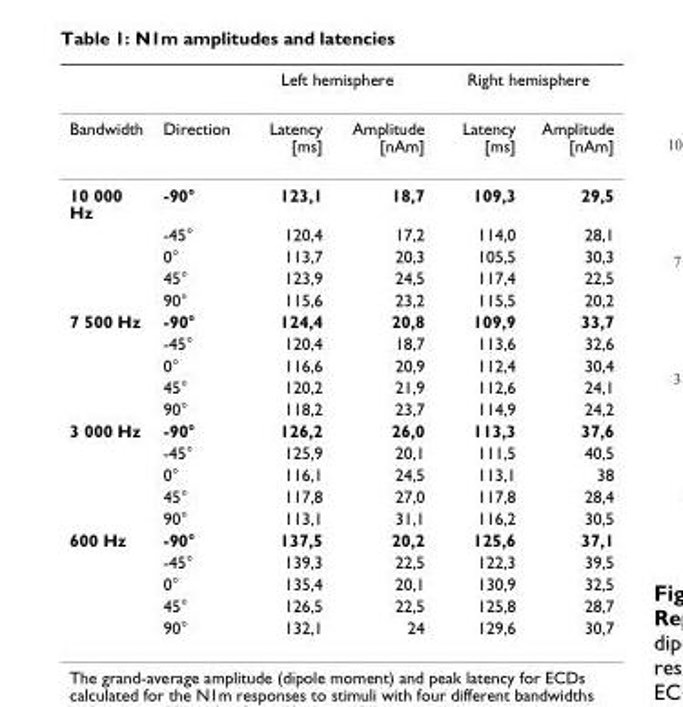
<table><thead><tr><td rowspan="2">Bandwidth</td><td rowspan="2">Direction</td><td colspan="2">Left hemisphere</td><td colspan="2">Right hemisphere</td></tr><tr><td>Latency [ms]</td><td>Amplitude [nAm]</td><td>Latency [ms]</td><td>Amplitude [nAm]</td></tr></thead><tbody><tr><td rowspan="5">10 000 Hz</td><td>-90°</td><td>123,1</td><td>18,7</td><td>109,3</td><td>29,5</td></tr><tr><td>-45°</td><td>120,4</td><td>17,2</td><td>114,0</td><td>28,1</td></tr><tr><td>0°</td><td>113,7</td><td>20,3</td><td>105,5</td><td>30,3</td></tr><tr><td>45°</td><td>123,9</td><td>24,5</td><td>117,4</td><td>22,5</td></tr><tr><td>90°</td><td>115,6</td><td>23,2</td><td>115,5</td><td>20,2</td></tr><tr><td rowspan="5">7 500 Hz</td><td>-90°</td><td>124,4</td><td>20,8</td><td>109,9</td><td>33,7</td></tr><tr><td>-45°</td><td>120,4</td><td>18,7</td><td>113,6</td><td>32,6</td></tr><tr><td>0°</td><td>116,6</td><td>20,9</td><td>112,4</td><td>30,4</td></tr><tr><td>45°</td><td>120,2</td><td>21,9</td><td>112,6</td><td>24,1</td></tr><tr><td>90°</td><td>118,2</td><td>23,7</td><td>114,9</td><td>24,2</td></tr><tr><td rowspan="5">3 000 Hz</td><td>-90°</td><td>126,2</td><td>26,0</td><td>113,3</td><td>37,6</td></tr><tr><td>-45°</td><td>125,9</td><td>20,1</td><td>111,5</td><td>40,5</td></tr><tr><td>0°</td><td>116,1</td><td>24,5</td><td>113,1</td><td>38</td></tr><tr><td>45°</td><td>117,8</td><td>27,0</td><td>117,8</td><td>28,4</td></tr><tr><td>90°</td><td>113,1</td><td>31,1</td><td>116,2</td><td>30,5</td></tr><tr><td rowspan="5">600 Hz</td><td>-90°</td><td>137,5</td><td>20,2</td><td>125,6</td><td>37,1</td></tr><tr><td>-45°</td><td>139,3</td><td>22,5</td><td>122,3</td><td>39,5</td></tr><tr><td>0°</td><td>135,4</td><td>20,1</td><td>130,9</td><td>32,5</td></tr><tr><td>45°</td><td>126,5</td><td>22,5</td><td>125,8</td><td>28,7</td></tr><tr><td>90°</td><td>132,1</td><td>24</td><td>129,6</td><td>30,7</td></tr></tbody></table>